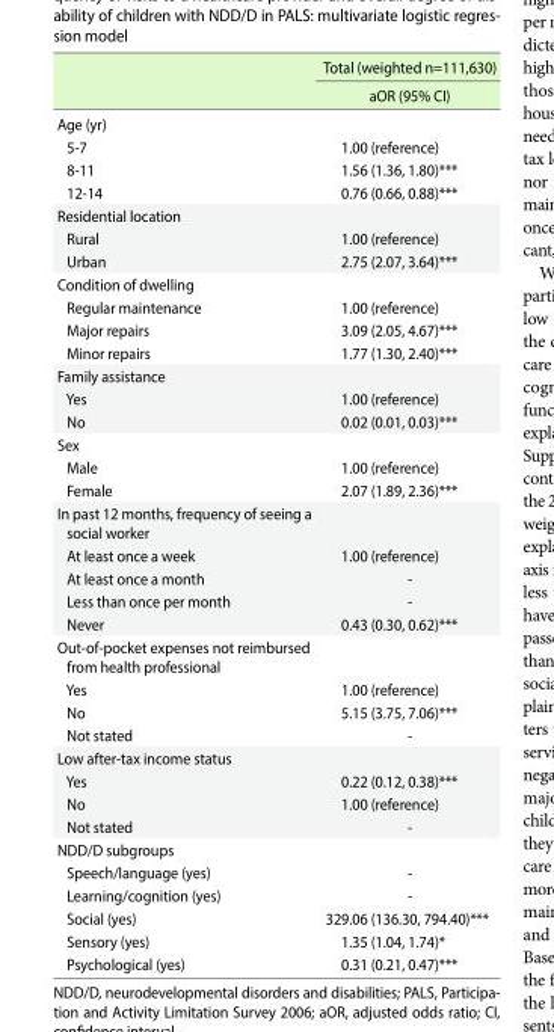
<table><thead><tr><td rowspan="2"></td><td rowspan="2">Total (weighted n=111,630) aOR (95% CI)</td></tr><tr></tr></thead><tbody><tr><td colspan="2">Age (yr)</td></tr><tr><td>5-7</td><td>1.00 (reference)</td></tr><tr><td>8-11</td><td>1.56 (1.36, 1.80)***</td></tr><tr><td>12-14</td><td>0.76 (0.66, 0.88)***</td></tr><tr><td colspan="2">Residential location</td></tr><tr><td>Rural</td><td>1.00 (reference)</td></tr><tr><td>Urban</td><td>2.75 (2.07, 3.64)***</td></tr><tr><td colspan="2">Condition of dwelling</td></tr><tr><td>Regular maintenance</td><td>1.00 (reference)</td></tr><tr><td>Major repairs</td><td>3.09 (2.05, 4.67)***</td></tr><tr><td>Minor repairs</td><td>1.77 (1.30, 2.40)***</td></tr><tr><td colspan="2">Family assistance</td></tr><tr><td>Yes</td><td>1.00 (reference)</td></tr><tr><td>No</td><td>0.02 (0.01, 0.03)***</td></tr><tr><td colspan="2">Sex</td></tr><tr><td>Male</td><td>1.00 (reference)</td></tr><tr><td>Female</td><td>2.07 (1.89, 2.36)***</td></tr><tr><td colspan="2">In past 12 months, frequency of seeing a social worker</td></tr><tr><td>At least once a week</td><td>1.00 (reference)</td></tr><tr><td>At least once a month</td><td>-</td></tr><tr><td>Less than once per month</td><td>-</td></tr><tr><td>Never</td><td>0.43 (0.30, 0.62)***</td></tr><tr><td colspan="2">Out-of-pocket expenses not reimbursed from health professional</td></tr><tr><td>Yes</td><td>1.00 (reference)</td></tr><tr><td>No</td><td>5.15 (3.75, 7.06)***</td></tr><tr><td>Not stated</td><td>-</td></tr><tr><td colspan="2">Low after-tax income status</td></tr><tr><td>Yes</td><td>0.22 (0.12, 0.38)***</td></tr><tr><td>No</td><td>1.00 (reference)</td></tr><tr><td>Not stated</td><td>-</td></tr><tr><td colspan="2">NDD/D subgroups</td></tr><tr><td>Speech/language (yes)</td><td>-</td></tr><tr><td>Learning/cognition (yes)</td><td>-</td></tr><tr><td>Social (yes)</td><td>329.06 (136.30, 794.40)***</td></tr><tr><td>Sensory (yes)</td><td>1.35 (1.04, 1.74)*</td></tr><tr><td>Psychological (yes)</td><td>0.31 (0.21, 0.47)***</td></tr></tbody></table>